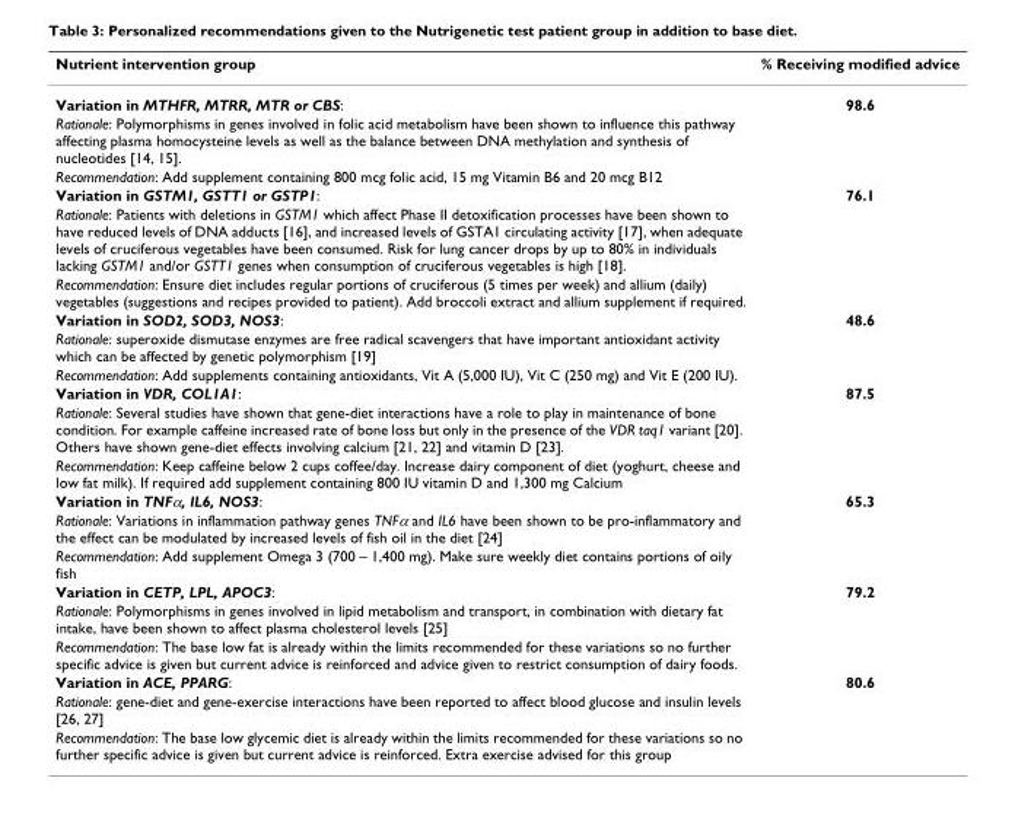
<table><thead><tr><td>Nutrient intervention group</td><td>% Receiving modified advice</td></tr></thead><tbody><tr><td>Variation in MTHFR, MTRR, MTR or CBS:</td><td>98.6</td></tr><tr><td colspan="2">Rationale: Polymorphisms in genes involved in folic acid metabolism have been shown to influence this pathway affecting plasma homocysteine levels as well as the balance between DNA methylation and synthesis of nucleotides [14, 15].</td></tr><tr><td colspan="2">Recommendation: Add supplement containing 800 mcg folic acid, 15 mg Vitamin B6 and 20 mcg B12</td></tr><tr><td>Variation in GSTM1, GSTT1 or GSTP1:</td><td>76.1</td></tr><tr><td colspan="2">Rationale: Patients with deletions in GSTM1 which affect Phase II detoxification processes have been shown to have reduced levels of DNA adducts [16], and increased levels of GSTA1 circulating activity [17], when adequate levels of cruciferous vegetables have been consumed. Risk for lung cancer drops by up to 80% in individuals lacking GSTM1 and/or GSTT1 genes when consumption of cruciferous vegetables is high [18].</td></tr><tr><td colspan="2">Recommendation: Ensure diet includes regular portions of cruciferous (5 times per week) and allium (daily) vegetables (suggestions and recipes provided to patient). Add broccoli extract and allium supplement if required.</td></tr><tr><td>Variation in SOD2, SOD3, NOS3:</td><td>48.6</td></tr><tr><td colspan="2">Rationale: superoxide dismutase enzymes are free radical scavengers that have important antioxidant activity which can be affected by genetic polymorphism [19]</td></tr><tr><td colspan="2">Recommendation: Add supplements containing antioxidants, Vit A (5,000 IU), Vit C (250 mg) and Vit E (200 IU).</td></tr><tr><td>Variation in VDR, COL1A1:</td><td>87.5</td></tr><tr><td colspan="2">Rationale: Several studies have shown that gene-diet interactions have a role to play in maintenance of bone condition. For example caffeine increased rate of bone loss but only in the presence of the VDR taq1 variant [20]. Others have shown gene-diet effects involving calcium [21, 22] and vitamin D [23].</td></tr><tr><td colspan="2">Recommendation: Keep caffeine below 2 cups coffee/day. Increase dairy component of diet (yoghurt, cheese and low fat milk). If required add supplement containing 800 IU vitamin D and 1,300 mg Calcium</td></tr><tr><td>Variation in TNFα, IL6, NOS3:</td><td>65.3</td></tr><tr><td colspan="2">Rationale: Variations in inflammation pathway genes TNFα and IL6 have been shown to be pro-inflammatory and the effect can be modulated by increased levels of fish oil in the diet [24]</td></tr><tr><td colspan="2">Recommendation: Add supplement Omega 3 (700 – 1,400 mg). Make sure weekly diet contains portions of oily fish</td></tr><tr><td>Variation in CETP, LPL, APOC3:</td><td>79.2</td></tr><tr><td colspan="2">Rationale: Polymorphisms in genes involved in lipid metabolism and transport, in combination with dietary fat intake, have been shown to affect plasma cholesterol levels [25]</td></tr><tr><td colspan="2">Recommendation: The base low fat is already within the limits recommended for these variations so no further specific advice is given but current advice is reinforced and advice given to restrict consumption of dairy foods.</td></tr><tr><td>Variation in ACE, PPARG:</td><td>80.6</td></tr><tr><td colspan="2">Rationale: gene-diet and gene-exercise interactions have been reported to affect blood glucose and insulin levels [26, 27]</td></tr><tr><td>Recommendation: The base low glycemic diet is already within the limits recommended for these variations so no further specific advice is given but current advice is reinforced. Extra exercise advised for this group</td><td></td></tr></tbody></table>